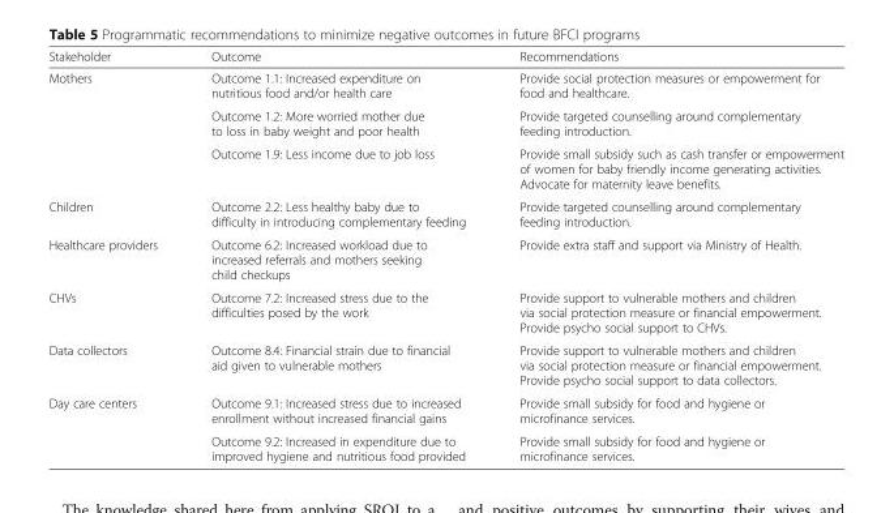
<table><thead><tr><td>Stakeholder</td><td>Outcome</td><td>Recommendations</td></tr></thead><tbody><tr><td rowspan="3">Mothers</td><td>Outcome 1.1: Increased expenditure on nutritious food and/or health care</td><td>Provide social protection measures or empowerment for food and healthcare.</td></tr><tr><td>Outcome 1.2: More worried mother due to loss in baby weight and poor health</td><td>Provide targeted counselling around complementary feeding introduction.</td></tr><tr><td>Outcome 1.9: Less income due to job loss</td><td>Provide small subsidy such as cash transfer or empowerment of women for baby friendly income generating activities. Advocate for maternity leave benefits.</td></tr><tr><td>Children</td><td>Outcome 2.2: Less healthy baby due to difficulty in introducing complementary feeding</td><td>Provide targeted counselling around complementary feeding introduction.</td></tr><tr><td>Healthcare providers</td><td>Outcome 6.2: Increased workload due to increased referrals and mothers seeking child checkups</td><td>Provide extra staff and support via Ministry of Health.</td></tr><tr><td>CHVs</td><td>Outcome 7.2: Increased stress due to the difficulties posed by the work</td><td>Provide support to vulnerable mothers and children via social protection measure or financial empowerment. Provide psycho social support to CHVs.</td></tr><tr><td>Data collectors</td><td>Outcome 8.4: Financial strain due to financial aid given to vulnerable mothers</td><td>Provide support to vulnerable mothers and children via social protection measure or financial empowerment. Provide psycho social support to data collectors.</td></tr><tr><td rowspan="2">Day care centers</td><td>Outcome 9.1: Increased stress due to increased enrollment without increased financial gains</td><td>Provide small subsidy for food and hygiene or microfinance services.</td></tr><tr><td>Outcome 9.2: Increased in expenditure due to improved hygiene and nutritious food provided</td><td>Provide small subsidy for food and hygiene or microfinance services.</td></tr></tbody></table>